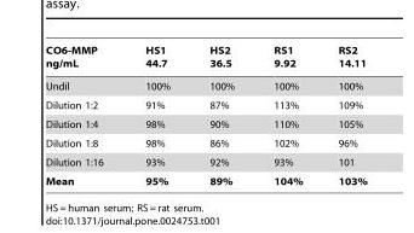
<table><thead><tr><td>CO6-MMP ng/mL</td><td>HS1 44.7</td><td>HS2 36.5</td><td>RS1 9.92</td><td>RS2 14.11</td></tr></thead><tbody><tr><td>Undil</td><td>100%</td><td>100%</td><td>100%</td><td>100%</td></tr><tr><td>Dilution 1:2</td><td>91%</td><td>87%</td><td>113%</td><td>109%</td></tr><tr><td>Dilution 1:4</td><td>98%</td><td>90%</td><td>110%</td><td>105%</td></tr><tr><td>Dilution 1:8</td><td>98%</td><td>86%</td><td>102%</td><td>96%</td></tr><tr><td>Dilution 1:16</td><td>93%</td><td>92%</td><td>93%</td><td>101</td></tr><tr><td>Mean</td><td>95%</td><td>89%</td><td>104%</td><td>103%</td></tr></tbody></table>